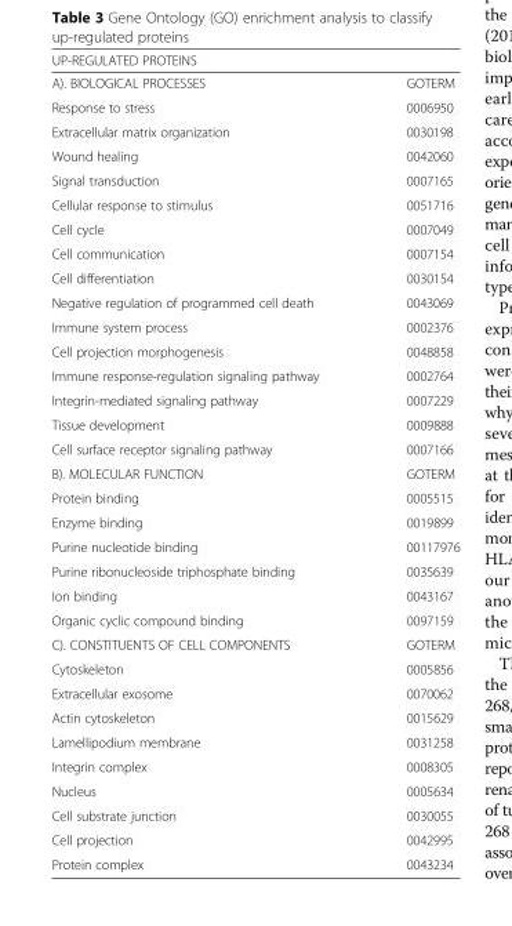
<table><thead><tr><td colspan="2">UP-REGULATED PROTEINS</td></tr><tr><td>A). BIOLOGICAL PROCESSES</td><td>GOTERM</td></tr></thead><tbody><tr><td>Response to stress</td><td>0006950</td></tr><tr><td>Extracellular matrix organization</td><td>0030198</td></tr><tr><td>Wound healing</td><td>0042060</td></tr><tr><td>Signal transduction</td><td>0007165</td></tr><tr><td>Cellular response to stimulus</td><td>0051716</td></tr><tr><td>Cell cycle</td><td>0007049</td></tr><tr><td>Cell communication</td><td>0007154</td></tr><tr><td>Cell differentiation</td><td>0030154</td></tr><tr><td>Negative regulation of programmed cell death</td><td>0043069</td></tr><tr><td>Immune system process</td><td>0002376</td></tr><tr><td>Cell projection morphogenesis</td><td>0048858</td></tr><tr><td>Immune response-regulation signaling pathway</td><td>0002764</td></tr><tr><td>Integrin-mediated signaling pathway</td><td>0007229</td></tr><tr><td>Tissue development</td><td>0009888</td></tr><tr><td>Cell surface receptor signaling pathway</td><td>0007166</td></tr><tr><td>B). MOLECULAR FUNCTION</td><td>GOTERM</td></tr><tr><td>Protein binding</td><td>0005515</td></tr><tr><td>Enzyme binding</td><td>0019899</td></tr><tr><td>Purine nucleotide binding</td><td>00117976</td></tr><tr><td>Purine ribonucleoside triphosphate binding</td><td>0035639</td></tr><tr><td>Ion binding</td><td>0043167</td></tr><tr><td>Organic cyclic compound binding</td><td>0097159</td></tr><tr><td>C). CONSTITUENTS OF CELL COMPONENTS</td><td>GOTERM</td></tr><tr><td>Cytoskeleton</td><td>0005856</td></tr><tr><td>Extracellular exosome</td><td>0070062</td></tr><tr><td>Actin cytoskeleton</td><td>0015629</td></tr><tr><td>Lamellipodium membrane</td><td>0031258</td></tr><tr><td>Integrin complex</td><td>0008305</td></tr><tr><td>Nucleus</td><td>0005634</td></tr><tr><td>Cell substrate junction</td><td>0030055</td></tr><tr><td>Cell projection</td><td>0042995</td></tr><tr><td>Protein complex</td><td>0043234</td></tr></tbody></table>